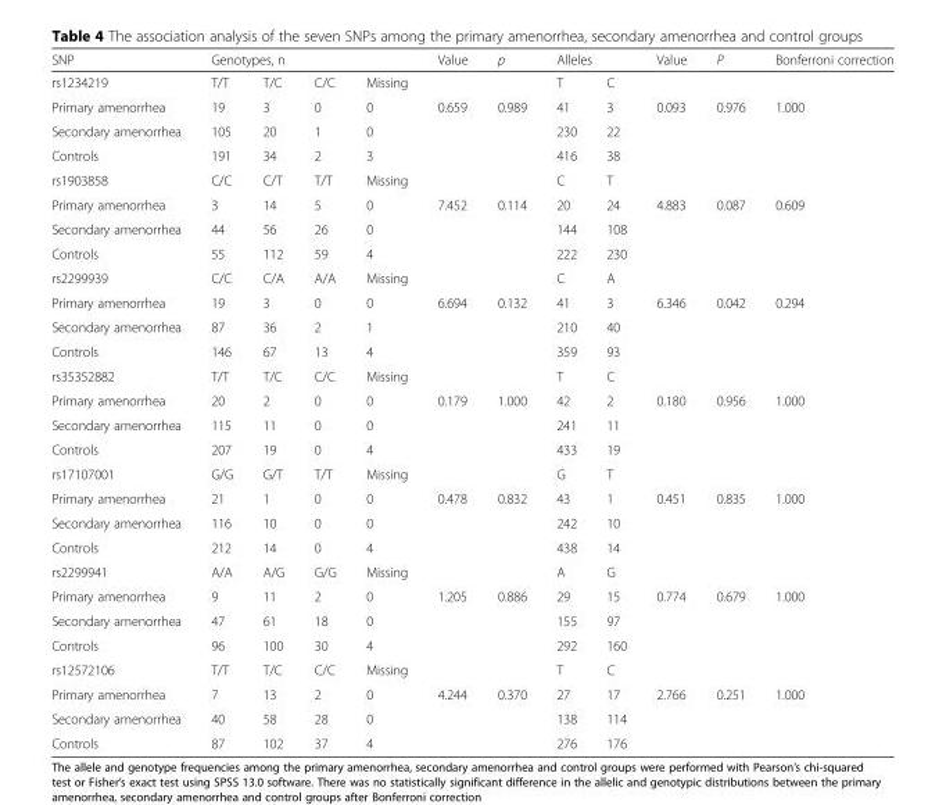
<table><thead><tr><td rowspan="2">SNP rs1234219</td><td colspan="4">Genotypes, n</td><td rowspan="2">Value</td><td rowspan="2">p</td><td colspan="2">Alleles</td><td rowspan="2">Value</td><td rowspan="2">P</td><td rowspan="2">Bonferroni correction</td></tr><tr><td>T/T</td><td>T/C</td><td>C/C</td><td>Missing</td><td>T</td><td>C</td></tr></thead><tbody><tr><td>Primary amenorrhea</td><td>19</td><td>3</td><td>0</td><td>0</td><td>0.659</td><td>0.989</td><td>41</td><td>3</td><td>0.093</td><td>0.976</td><td>1.000</td></tr><tr><td>Secondary amenorrhea</td><td>105</td><td>20</td><td>1</td><td>0</td><td></td><td></td><td>230</td><td>22</td><td></td><td></td><td></td></tr><tr><td>Controls</td><td>191</td><td>34</td><td>2</td><td>3</td><td></td><td></td><td>416</td><td>38</td><td></td><td></td><td></td></tr><tr><td>rs1903858</td><td>C/C</td><td>C/T</td><td>T/T</td><td>Missing</td><td></td><td></td><td>C</td><td>T</td><td></td><td></td><td></td></tr><tr><td>Primary amenorrhea</td><td>3</td><td>14</td><td>5</td><td>0</td><td>7.452</td><td>0.114</td><td>20</td><td>24</td><td>4.883</td><td>0.087</td><td>0.609</td></tr><tr><td>Secondary amenorrhea</td><td>44</td><td>56</td><td>26</td><td>0</td><td></td><td></td><td>144</td><td>108</td><td></td><td></td><td></td></tr><tr><td>Controls</td><td>55</td><td>112</td><td>59</td><td>4</td><td></td><td></td><td>222</td><td>230</td><td></td><td></td><td></td></tr><tr><td>rs2299939</td><td>C/C</td><td>C/A</td><td>A/A</td><td>Missing</td><td></td><td></td><td>C</td><td>A</td><td></td><td></td><td></td></tr><tr><td>Primary amenorrhea</td><td>19</td><td>3</td><td>0</td><td>0</td><td>6.694</td><td>0.132</td><td>41</td><td>3</td><td>6.346</td><td>0.042</td><td>0.294</td></tr><tr><td>Secondary amenorrhea</td><td>87</td><td>36</td><td>2</td><td>1</td><td></td><td></td><td>210</td><td>40</td><td></td><td></td><td></td></tr><tr><td>Controls</td><td>146</td><td>67</td><td>13</td><td>4</td><td></td><td></td><td>359</td><td>93</td><td></td><td></td><td></td></tr><tr><td>rs35352882</td><td>T/T</td><td>T/C</td><td>C/C</td><td>Missing</td><td></td><td></td><td>T</td><td>C</td><td></td><td></td><td></td></tr><tr><td>Primary amenorrhea</td><td>20</td><td>2</td><td>0</td><td>0</td><td>0.179</td><td>1.000</td><td>42</td><td>2</td><td>0.180</td><td>0.956</td><td>1.000</td></tr><tr><td>Secondary amenorrhea</td><td>115</td><td>11</td><td>0</td><td>0</td><td></td><td></td><td>241</td><td>11</td><td></td><td></td><td></td></tr><tr><td>Controls</td><td>207</td><td>19</td><td>0</td><td>4</td><td></td><td></td><td>433</td><td>19</td><td></td><td></td><td></td></tr><tr><td>rs17107001</td><td>G/G</td><td>G/T</td><td>T/T</td><td>Missing</td><td></td><td></td><td>G</td><td>T</td><td></td><td></td><td></td></tr><tr><td>Primary amenorrhea</td><td>21</td><td>1</td><td>0</td><td>0</td><td>0.478</td><td>0.832</td><td>43</td><td>1</td><td>0.451</td><td>0.835</td><td>1.000</td></tr><tr><td>Secondary amenorrhea</td><td>116</td><td>10</td><td>0</td><td>0</td><td></td><td></td><td>242</td><td>10</td><td></td><td></td><td></td></tr><tr><td>Controls</td><td>212</td><td>14</td><td>0</td><td>4</td><td></td><td></td><td>438</td><td>14</td><td></td><td></td><td></td></tr><tr><td>rs2299941</td><td>A/A</td><td>A/G</td><td>G/G</td><td>Missing</td><td></td><td></td><td>A</td><td>G</td><td></td><td></td><td></td></tr><tr><td>Primary amenorrhea</td><td>9</td><td>11</td><td>2</td><td>0</td><td>1.205</td><td>0.886</td><td>29</td><td>15</td><td>0.774</td><td>0.679</td><td>1.000</td></tr><tr><td>Secondary amenorrhea</td><td>47</td><td>61</td><td>18</td><td>0</td><td></td><td></td><td>155</td><td>97</td><td></td><td></td><td></td></tr><tr><td>Controls</td><td>96</td><td>100</td><td>30</td><td>4</td><td></td><td></td><td>292</td><td>160</td><td></td><td></td><td></td></tr><tr><td>rs12572106</td><td>T/T</td><td>T/C</td><td>C/C</td><td>Missing</td><td></td><td></td><td>T</td><td>C</td><td></td><td></td><td></td></tr><tr><td>Primary amenorrhea</td><td>7</td><td>13</td><td>2</td><td>0</td><td>4.244</td><td>0.370</td><td>27</td><td>17</td><td>2.766</td><td>0.251</td><td>1.000</td></tr><tr><td>Secondary amenorrhea</td><td>40</td><td>58</td><td>28</td><td>0</td><td></td><td></td><td>138</td><td>114</td><td></td><td></td><td></td></tr><tr><td>Controls</td><td>87</td><td>102</td><td>37</td><td>4</td><td></td><td></td><td>276</td><td>176</td><td></td><td></td><td></td></tr></tbody></table>